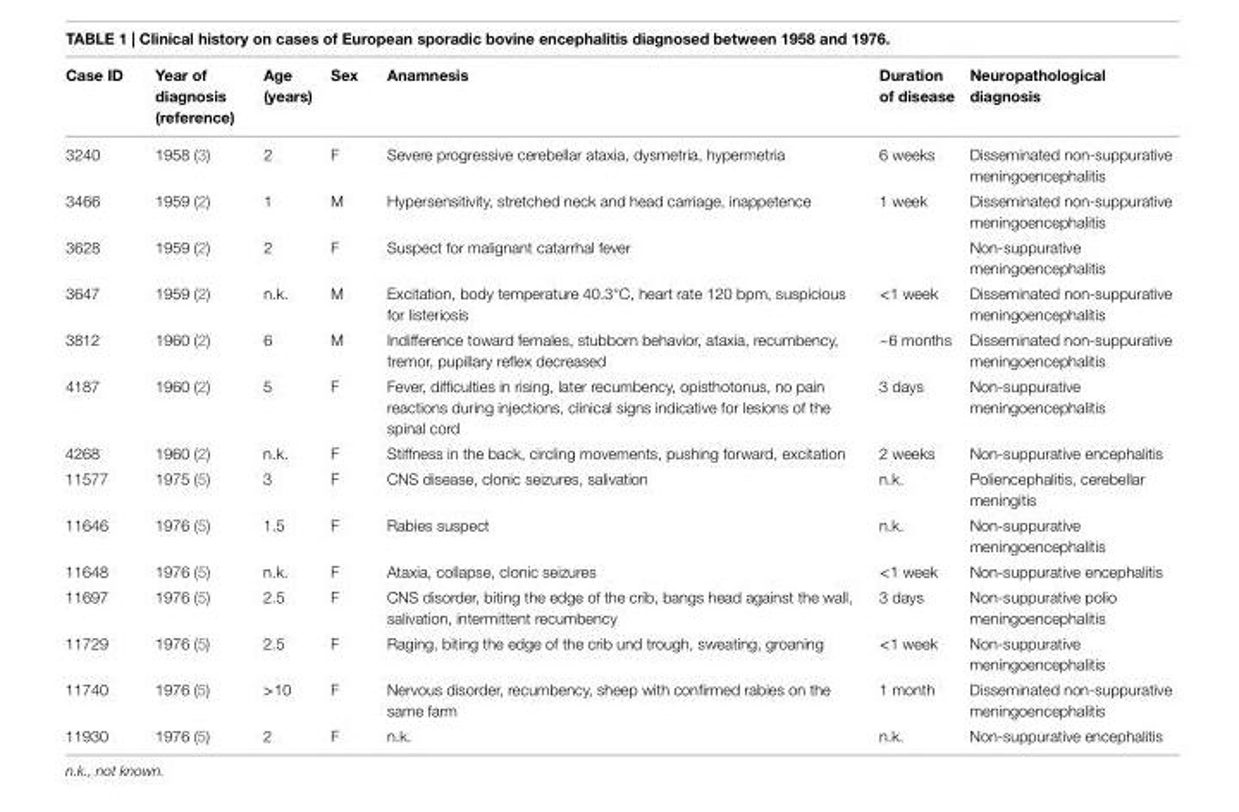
<table><thead><tr><td>case iD</td><td>Year of diagnosis (reference)</td><td>age (years)</td><td>sex</td><td>anamnesis</td><td>Duration of disease</td><td>neuropathological diagnosis</td></tr></thead><tbody><tr><td>3240</td><td>1958 (3)</td><td>2</td><td>F</td><td>Severe progressive cerebellar ataxia, dysmetria, hypermetria</td><td>6 weeks</td><td>Disseminated non-suppurative meningoencephalitis</td></tr><tr><td>3466</td><td>1959 (2)</td><td>1</td><td>M</td><td>Hypersensitivity, stretched neck and head carriage, inappetence</td><td>1 week</td><td>Disseminated non-suppurative meningoencephalitis</td></tr><tr><td>3628</td><td>1959 (2)</td><td>2</td><td>F</td><td>Suspect for malignant catarrhal fever</td><td></td><td>Non-suppurative meningoencephalitis</td></tr><tr><td>3647</td><td>1959 (2)</td><td>n.k.</td><td>M</td><td>Excitation, body temperature 40.3°C, heart rate 120 bpm, suspicious for listeriosis</td><td>&lt;1 week</td><td>Disseminated non-suppurative meningoencephalitis</td></tr><tr><td>3812</td><td>1960 (2)</td><td>6</td><td>M</td><td>Indifference toward females, stubborn behavior, ataxia, recumbency, tremor, pupillary reflex decreased</td><td>~6 months</td><td>Disseminated non-suppurative meningoencephalitis</td></tr><tr><td>4187</td><td>1960 (2)</td><td>5</td><td>F</td><td>Fever, difficulties in rising, later recumbency, opisthotonus, no pain reactions during injections, clinical signs indicative for lesions of the spinal cord</td><td>3 days</td><td>Non-suppurative meningoencephalitis</td></tr><tr><td>4268</td><td>1960 (2)</td><td>n.k.</td><td>F</td><td>Stiffness in the back, circling movements, pushing forward, excitation</td><td>2 weeks</td><td>Non-suppurative encephalitis</td></tr><tr><td>11577</td><td>1975 (5)</td><td>3</td><td>F</td><td>CNS disease, clonic seizures, salivation</td><td>n.k.</td><td>Poliencephalitis, cerebellar meningitis</td></tr><tr><td>11646</td><td>1976 (5)</td><td>1.5</td><td>F</td><td>Rabies suspect</td><td>n.k.</td><td>Non-suppurative meningoencephalitis</td></tr><tr><td>11648</td><td>1976 (5)</td><td>n.k.</td><td>F</td><td>Ataxia, collapse, clonic seizures</td><td>&lt;1 week</td><td>Non-suppurative encephalitis</td></tr><tr><td>11697</td><td>1976 (5)</td><td>2.5</td><td>F</td><td>CNS disorder, biting the edge of the crib, bangs head against the wall, salivation, intermittent recumbency</td><td>3 days</td><td>Non-suppurative polio meningoencephalitis</td></tr><tr><td>11729</td><td>1976 (5)</td><td>2.5</td><td>F</td><td>Raging, biting the edge of the crib und trough, sweating, groaning</td><td>&lt;1 week</td><td>Non-suppurative meningoencephalitis</td></tr><tr><td>11740</td><td>1976 (5)</td><td>&gt;10</td><td>F</td><td>Nervous disorder, recumbency, sheep with confirmed rabies on the same farm</td><td>1 month</td><td>Disseminated non-suppurative meningoencephalitis</td></tr><tr><td>11930</td><td>1976 (5)</td><td>2</td><td>F</td><td>n.k.</td><td>n.k.</td><td>Non-suppurative encephalitis</td></tr></tbody></table>